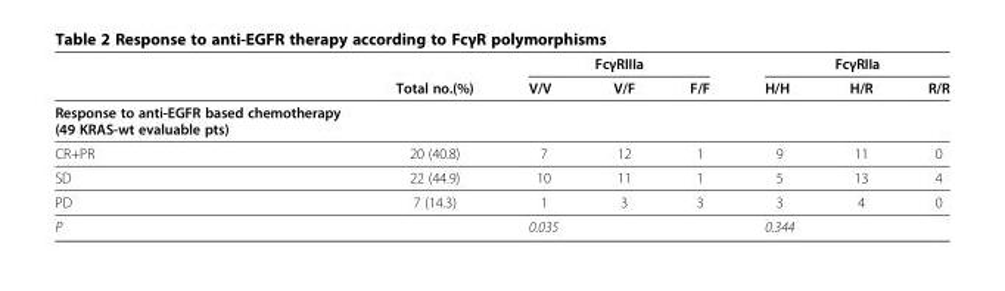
<table><thead><tr><td rowspan="2"></td><td rowspan="2">Total no.(%)</td><td colspan="3">FcγRIIIa</td><td colspan="3">FcγRIIa</td></tr><tr><td>V/V</td><td>V/F</td><td>F/F</td><td>H/H</td><td>H/R</td><td>R/R</td></tr></thead><tbody><tr><td colspan="8">Response to anti-EGFR based chemotherapy (49 KRAS-wt evaluable pts)</td></tr><tr><td>CR+PR</td><td>20 (40.8)</td><td>7</td><td>12</td><td>1</td><td>9</td><td>11</td><td>0</td></tr><tr><td>SD</td><td>22 (44.9)</td><td>10</td><td>11</td><td>1</td><td>5</td><td>13</td><td>4</td></tr><tr><td>PD</td><td>7 (14.3)</td><td>1</td><td>3</td><td>3</td><td>3</td><td>4</td><td>0</td></tr><tr><td>P</td><td></td><td>0.035</td><td></td><td></td><td>0.344</td><td></td><td></td></tr></tbody></table>